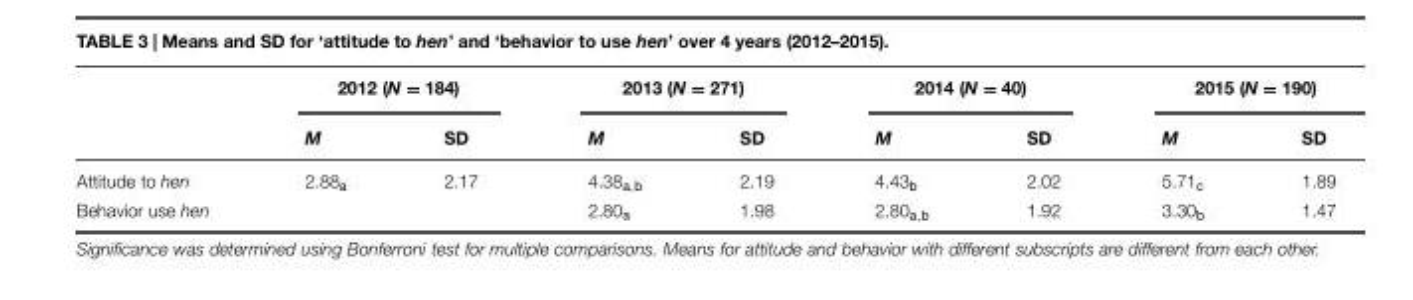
<table><thead><tr><td rowspan="2"></td><td colspan="2">2012 (N = 184)</td><td colspan="2">2013 (N = 271)</td><td colspan="2">2014 (N = 40)</td><td colspan="2">2015 (N = 190)</td></tr><tr><td>M</td><td>SD</td><td>M</td><td>SD</td><td>M</td><td>SD</td><td>M</td><td>SD</td></tr></thead><tbody><tr><td>Attitude to hen</td><td>2.88<sub>a</sub></td><td>2.17</td><td>4.38<sub>a,b</sub></td><td>2.19</td><td>4.43<sub>b</sub></td><td>2.02</td><td>5.71<sub>c</sub></td><td>1.89</td></tr><tr><td>Behavior use hen</td><td></td><td></td><td>2.80<sub>a</sub></td><td>1.98</td><td>2.80<sub>a,b</sub></td><td>1.92</td><td>3.30<sub>b</sub></td><td>1.47</td></tr></tbody></table>